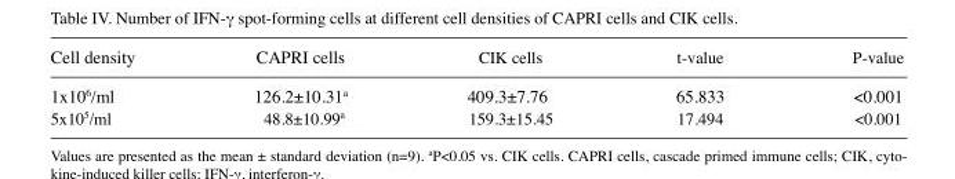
<table><thead><tr><td>Cell density</td><td>CAPRI cells</td><td>CIK cells</td><td>t-value</td><td>P-value</td></tr></thead><tbody><tr><td>1x106/ml</td><td>126.2±10.31<sup>a</sup></td><td>409.3±7.76</td><td>65.833</td><td>&lt;0.001</td></tr><tr><td>5x105/ml</td><td>48.8±10.99<sup>a</sup></td><td>159.3±15.45</td><td>17.494</td><td>&lt;0.001</td></tr></tbody></table>